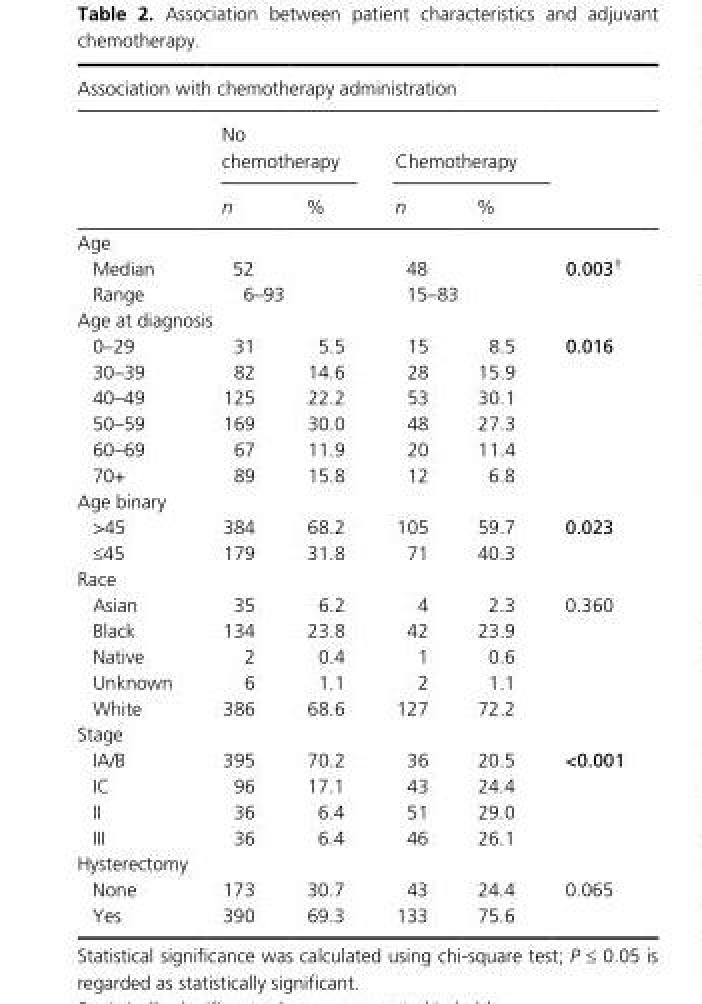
<table><thead><tr><td colspan="6">Association with chemotherapy administration</td></tr><tr><td rowspan="2"></td><td colspan="2">No chemotherapy</td><td colspan="2">Chemotherapy</td><td rowspan="2"></td></tr><tr><td>n</td><td>%</td><td>n</td><td>%</td></tr></thead><tbody><tr><td colspan="6">Age</td></tr><tr><td>Median</td><td colspan="2">52</td><td colspan="2">48</td><td>0.003†</td></tr><tr><td>Range</td><td colspan="2">6–93</td><td colspan="2">15–83</td><td></td></tr><tr><td colspan="6">Age at diagnosis</td></tr><tr><td>0–29</td><td>31</td><td>5.5</td><td>15</td><td>8.5</td><td>0.016</td></tr><tr><td>30–39</td><td>82</td><td>14.6</td><td>28</td><td>15.9</td><td></td></tr><tr><td>40–49</td><td>125</td><td>22.2</td><td>53</td><td>30.1</td><td></td></tr><tr><td>50–59</td><td>169</td><td>30.0</td><td>48</td><td>27.3</td><td></td></tr><tr><td>60–69</td><td>67</td><td>11.9</td><td>20</td><td>11.4</td><td></td></tr><tr><td>70+</td><td>89</td><td>15.8</td><td>12</td><td>6.8</td><td></td></tr><tr><td colspan="6">Age binary</td></tr><tr><td>&gt;45</td><td>384</td><td>68.2</td><td>105</td><td>59.7</td><td>0.023</td></tr><tr><td>≤45</td><td>179</td><td>31.8</td><td>71</td><td>40.3</td><td></td></tr><tr><td colspan="6">Race</td></tr><tr><td>Asian</td><td>35</td><td>6.2</td><td>4</td><td>2.3</td><td>0.360</td></tr><tr><td>Black</td><td>134</td><td>23.8</td><td>42</td><td>23.9</td><td></td></tr><tr><td>Native</td><td>2</td><td>0.4</td><td>1</td><td>0.6</td><td></td></tr><tr><td>Unknown</td><td>6</td><td>1.1</td><td>2</td><td>1.1</td><td></td></tr><tr><td>White</td><td>386</td><td>68.6</td><td>127</td><td>72.2</td><td></td></tr><tr><td colspan="6">Stage</td></tr><tr><td>IA/B</td><td>395</td><td>70.2</td><td>36</td><td>20.5</td><td>&lt;0.001</td></tr><tr><td>IC</td><td>96</td><td>17.1</td><td>43</td><td>24.4</td><td></td></tr><tr><td>II</td><td>36</td><td>6.4</td><td>51</td><td>29.0</td><td></td></tr><tr><td>III</td><td>36</td><td>6.4</td><td>46</td><td>26.1</td><td></td></tr><tr><td colspan="6">Hysterectomy</td></tr><tr><td>None</td><td>173</td><td>30.7</td><td>43</td><td>24.4</td><td>0.065</td></tr><tr><td>Yes</td><td>390</td><td>69.3</td><td>133</td><td>75.6</td><td></td></tr></tbody></table>